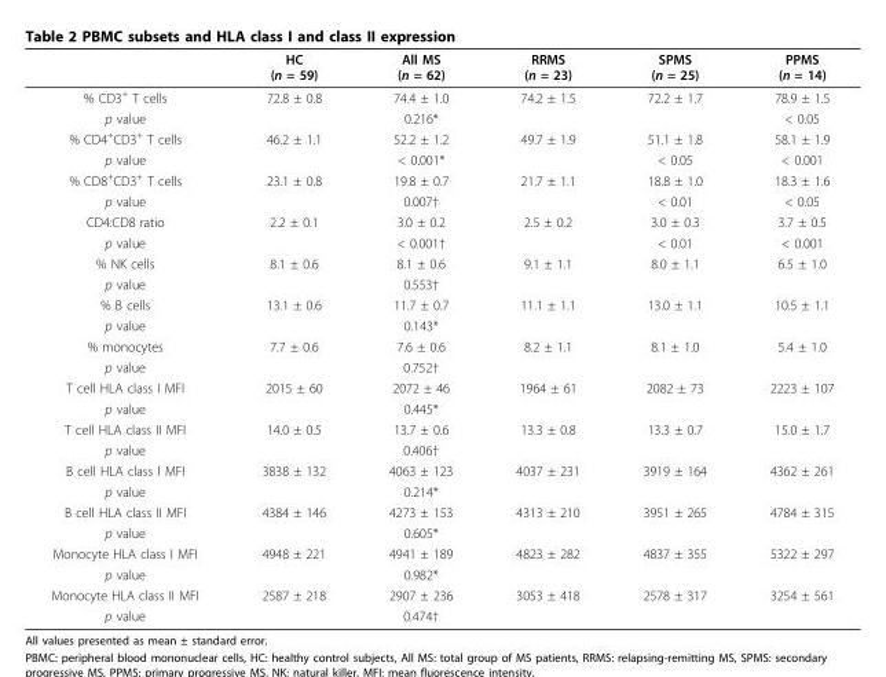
<table><thead><tr><td></td><td>HC (n = 59)</td><td>All MS (n = 62)</td><td>RRMS (n = 23)</td><td>SPMS (n = 25)</td><td>PPMS (n = 14)</td></tr></thead><tbody><tr><td>% CD3<sup>+</sup> T cells</td><td>72.8 ± 0.8</td><td>74.4 ± 1.0</td><td>74.2 ± 1.5</td><td>72.2 ± 1.7</td><td>78.9 ± 1.5</td></tr><tr><td>p value</td><td></td><td>0.216*</td><td></td><td></td><td>&lt; 0.05</td></tr><tr><td>% CD4<sup>+</sup>CD3<sup>+</sup> T cells</td><td>46.2 ± 1.1</td><td>52.2 ± 1.2</td><td>49.7 ± 1.9</td><td>51.1 ± 1.8</td><td>58.1 ± 1.9</td></tr><tr><td>p value</td><td></td><td>&lt; 0.001*</td><td></td><td>&lt; 0.05</td><td>&lt; 0.001</td></tr><tr><td>% CD8<sup>+</sup>CD3<sup>+</sup> T cells</td><td>23.1 ± 0.8</td><td>19.8 ± 0.7</td><td>21.7 ± 1.1</td><td>18.8 ± 1.0</td><td>18.3 ± 1.6</td></tr><tr><td>p value</td><td></td><td>0.007†</td><td></td><td>&lt; 0.01</td><td>&lt; 0.05</td></tr><tr><td>CD4:CD8 ratio</td><td>2.2 ± 0.1</td><td>3.0 ± 0.2</td><td>2.5 ± 0.2</td><td>3.0 ± 0.3</td><td>3.7 ± 0.5</td></tr><tr><td>p value</td><td></td><td>&lt; 0.001†</td><td></td><td>&lt; 0.01</td><td>&lt; 0.001</td></tr><tr><td>% NK cells</td><td>8.1 ± 0.6</td><td>8.1 ± 0.6</td><td>9.1 ± 1.1</td><td>8.0 ± 1.1</td><td>6.5 ± 1.0</td></tr><tr><td>p value</td><td></td><td>0.553†</td><td></td><td></td><td></td></tr><tr><td>% B cells</td><td>13.1 ± 0.6</td><td>11.7 ± 0.7</td><td>11.1 ± 1.1</td><td>13.0 ± 1.1</td><td>10.5 ± 1.1</td></tr><tr><td>p value</td><td></td><td>0.143*</td><td></td><td></td><td></td></tr><tr><td>% monocytes</td><td>7.7 ± 0.6</td><td>7.6 ± 0.6</td><td>8.2 ± 1.1</td><td>8.1 ± 1.0</td><td>5.4 ± 1.0</td></tr><tr><td>p value</td><td></td><td>0.752†</td><td></td><td></td><td></td></tr><tr><td>T cell HLA class I MFI</td><td>2015 ± 60</td><td>2072 ± 46</td><td>1964 ± 61</td><td>2082 ± 73</td><td>2223 ± 107</td></tr><tr><td>p value</td><td></td><td>0.445*</td><td></td><td></td><td></td></tr><tr><td>T cell HLA class II MFI</td><td>14.0 ± 0.5</td><td>13.7 ± 0.6</td><td>13.3 ± 0.8</td><td>13.3 ± 0.7</td><td>15.0 ± 1.7</td></tr><tr><td>p value</td><td></td><td>0.406†</td><td></td><td></td><td></td></tr><tr><td>B cell HLA class I MFI</td><td>3838 ± 132</td><td>4063 ± 123</td><td>4037 ± 231</td><td>3919 ± 164</td><td>4362 ± 261</td></tr><tr><td>p value</td><td></td><td>0.214*</td><td></td><td></td><td></td></tr><tr><td>B cell HLA class II MFI</td><td>4384 ± 146</td><td>4273 ± 153</td><td>4313 ± 210</td><td>3951 ± 265</td><td>4784 ± 315</td></tr><tr><td>p value</td><td></td><td>0.605*</td><td></td><td></td><td></td></tr><tr><td>Monocyte HLA class I MFI</td><td>4948 ± 221</td><td>4941 ± 189</td><td>4823 ± 282</td><td>4837 ± 355</td><td>5322 ± 297</td></tr><tr><td>p value</td><td></td><td>0.982*</td><td></td><td></td><td></td></tr><tr><td>Monocyte HLA class II MFI</td><td>2587 ± 218</td><td>2907 ± 236</td><td>3053 ± 418</td><td>2578 ± 317</td><td>3254 ± 561</td></tr><tr><td>p value</td><td></td><td>0.474†</td><td></td><td></td><td></td></tr></tbody></table>